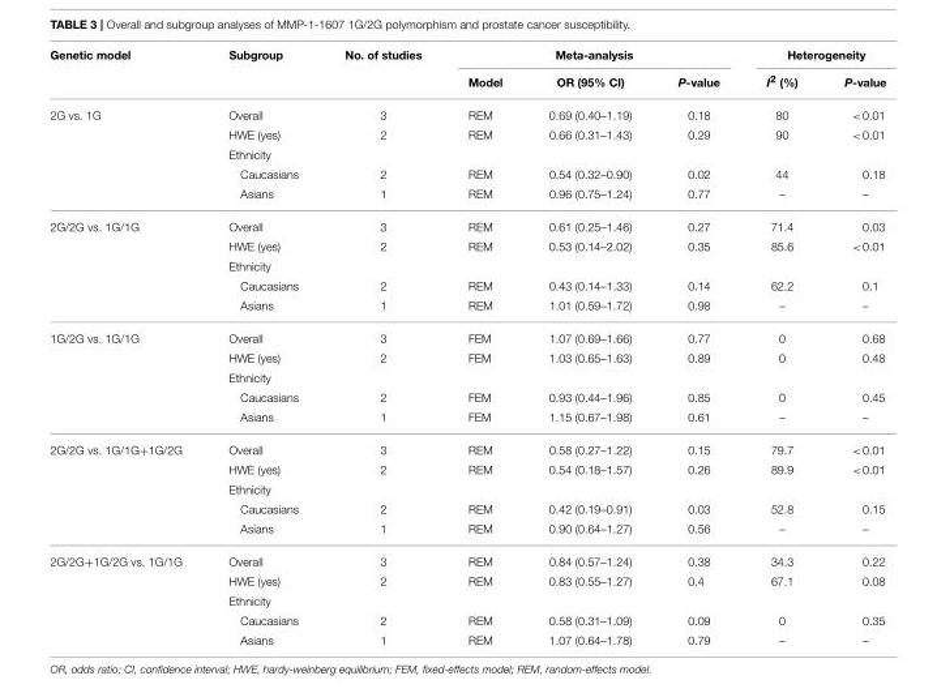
<table><thead><tr><td rowspan="2">Genetic model</td><td rowspan="2">Subgroup</td><td rowspan="2">No. of studies</td><td colspan="3">Meta-analysis</td><td colspan="2">Heterogeneity</td></tr><tr><td>Model</td><td>OR (95% CI)</td><td>P-value</td><td>I<sup>2</sup> (%)</td><td>P-value</td></tr></thead><tbody><tr><td rowspan="5">2G vs. 1G</td><td>Overall</td><td>3</td><td>REM</td><td>0.69 (0.40–1.19)</td><td>0.18</td><td>80</td><td>&lt;0.01</td></tr><tr><td>HWE (yes)</td><td>2</td><td>REM</td><td>0.66 (0.31–1.43)</td><td>0.29</td><td>90</td><td>&lt;0.01</td></tr><tr><td>Ethnicity</td><td></td><td></td><td></td><td></td><td></td><td></td></tr><tr><td>Caucasians</td><td>2</td><td>REM</td><td>0.54 (0.32–0.90)</td><td>0.02</td><td>44</td><td>0.18</td></tr><tr><td>Asians</td><td>1</td><td>REM</td><td>0.96 (0.75–1.24)</td><td>0.77</td><td>–</td><td>–</td></tr><tr><td rowspan="5">2G/2G vs. 1G/1G</td><td>Overall</td><td>3</td><td>REM</td><td>0.61 (0.25–1.46)</td><td>0.27</td><td>71.4</td><td>0.03</td></tr><tr><td>HWE (yes)</td><td>2</td><td>REM</td><td>0.53 (0.14–2.02)</td><td>0.35</td><td>85.6</td><td>&lt;0.01</td></tr><tr><td>Ethnicity</td><td></td><td></td><td></td><td></td><td></td><td></td></tr><tr><td>Caucasians</td><td>2</td><td>REM</td><td>0.43 (0.14–1.33)</td><td>0.14</td><td>62.2</td><td>0.1</td></tr><tr><td>Asians</td><td>1</td><td>REM</td><td>1.01 (0.59–1.72)</td><td>0.98</td><td>–</td><td>–</td></tr><tr><td rowspan="5">1G/2G vs. 1G/1G</td><td>Overall</td><td>3</td><td>FEM</td><td>1.07 (0.69–1.66)</td><td>0.77</td><td>0</td><td>0.68</td></tr><tr><td>HWE (yes)</td><td>2</td><td>FEM</td><td>1.03 (0.65–1.63)</td><td>0.89</td><td>0</td><td>0.48</td></tr><tr><td>Ethnicity</td><td></td><td></td><td></td><td></td><td></td><td></td></tr><tr><td>Caucasians</td><td>2</td><td>FEM</td><td>0.93 (0.44–1.96)</td><td>0.85</td><td>0</td><td>0.45</td></tr><tr><td>Asians</td><td>1</td><td>FEM</td><td>1.15 (0.67–1.98)</td><td>0.61</td><td>–</td><td>–</td></tr><tr><td rowspan="5">2G/2G vs. 1G/1G+1G/2G</td><td>Overall</td><td>3</td><td>REM</td><td>0.58 (0.27–1.22)</td><td>0.15</td><td>79.7</td><td>&lt;0.01</td></tr><tr><td>HWE (yes)</td><td>2</td><td>REM</td><td>0.54 (0.18–1.57)</td><td>0.26</td><td>89.9</td><td>&lt;0.01</td></tr><tr><td>Ethnicity</td><td></td><td></td><td></td><td></td><td></td><td></td></tr><tr><td>Caucasians</td><td>2</td><td>REM</td><td>0.42 (0.19–0.91)</td><td>0.03</td><td>52.8</td><td>0.15</td></tr><tr><td>Asians</td><td>1</td><td>REM</td><td>0.90 (0.64–1.27)</td><td>0.56</td><td>–</td><td>–</td></tr><tr><td rowspan="5">2G/2G+1G/2G vs. 1G/1G</td><td>Overall</td><td>3</td><td>REM</td><td>0.84 (0.57–1.24)</td><td>0.38</td><td>34.3</td><td>0.22</td></tr><tr><td>HWE (yes)</td><td>2</td><td>REM</td><td>0.83 (0.55–1.27)</td><td>0.4</td><td>67.1</td><td>0.08</td></tr><tr><td>Ethnicity</td><td></td><td></td><td></td><td></td><td></td><td></td></tr><tr><td>Caucasians</td><td>2</td><td>REM</td><td>0.58 (0.31–1.09)</td><td>0.09</td><td>0</td><td>0.35</td></tr><tr><td>Asians</td><td>1</td><td>REM</td><td>1.07 (0.64–1.78)</td><td>0.79</td><td>–</td><td>–</td></tr></tbody></table>